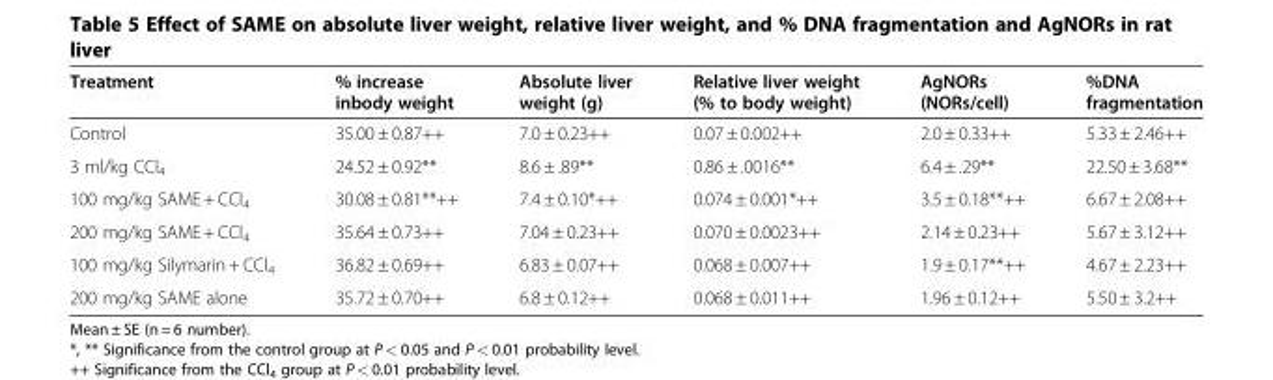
<table><thead><tr><td>Treatment</td><td>% increase inbody weight</td><td>Absolute liver weight (g)</td><td>Relative liver weight (% to body weight)</td><td>AgNORs (NORs/cell)</td><td>%DNA fragmentation</td></tr></thead><tbody><tr><td>Control</td><td>35.00 ± 0.87++</td><td>7.0 ± 0.23++</td><td>0.07 ± 0.002++</td><td>2.0 ± 0.33++</td><td>5.33 ± 2.46++</td></tr><tr><td>3 ml/kg CCl<sub>4</sub></td><td>24.52 ± 0.92**</td><td>8.6 ± .89**</td><td>0.86 ± .0016**</td><td>6.4 ± .29**</td><td>22.50 ± 3.68**</td></tr><tr><td>100 mg/kg SAME + CCl<sub>4</sub></td><td>30.08 ± 0.81**++</td><td>7.4 ± 0.10*++</td><td>0.074 ± 0.001*++</td><td>3.5 ± 0.18**++</td><td>6.67 ± 2.08++</td></tr><tr><td>200 mg/kg SAME + CCl<sub>4</sub></td><td>35.64 ± 0.73++</td><td>7.04 ± 0.23++</td><td>0.070 ± 0.0023++</td><td>2.14 ± 0.23++</td><td>5.67 ± 3.12++</td></tr><tr><td>100 mg/kg Silymarin + CCl<sub>4</sub></td><td>36.82 ± 0.69++</td><td>6.83 ± 0.07++</td><td>0.068 ± 0.007++</td><td>1.9 ± 0.17**++</td><td>4.67 ± 2.23++</td></tr><tr><td>200 mg/kg SAME alone</td><td>35.72 ± 0.70++</td><td>6.8 ± 0.12++</td><td>0.068 ± 0.011++</td><td>1.96 ± 0.12++</td><td>5.50 ± 3.2++</td></tr></tbody></table>